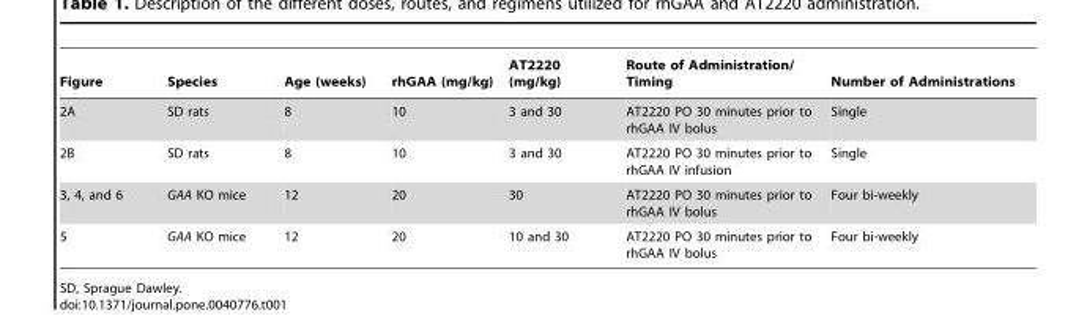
<table><thead><tr><td>Figure</td><td>Species</td><td>Age (weeks)</td><td>rhGAA (mg/kg)</td><td>AT2220 (mg/kg)</td><td>Route of Administration/ Timing</td><td>Number of Administrations</td></tr></thead><tbody><tr><td>2A</td><td>SD rats</td><td>8</td><td>10</td><td>3 and 30</td><td>AT2220 PO 30 minutes prior to rhGAA IV bolus</td><td>Single</td></tr><tr><td>2B</td><td>SD rats</td><td>8</td><td>10</td><td>3 and 30</td><td>AT2220 PO 30 minutes prior to rhGAA IV infusion</td><td>Single</td></tr><tr><td>3, 4, and 6</td><td>GAA KO mice</td><td>12</td><td>20</td><td>30</td><td>AT2220 PO 30 minutes prior to rhGAA IV bolus</td><td>Four bi-weekly</td></tr><tr><td>5</td><td>GAA KO mice</td><td>12</td><td>20</td><td>10 and 30</td><td>AT2220 PO 30 minutes prior to rhGAA IV bolus</td><td>Four bi-weekly</td></tr></tbody></table>